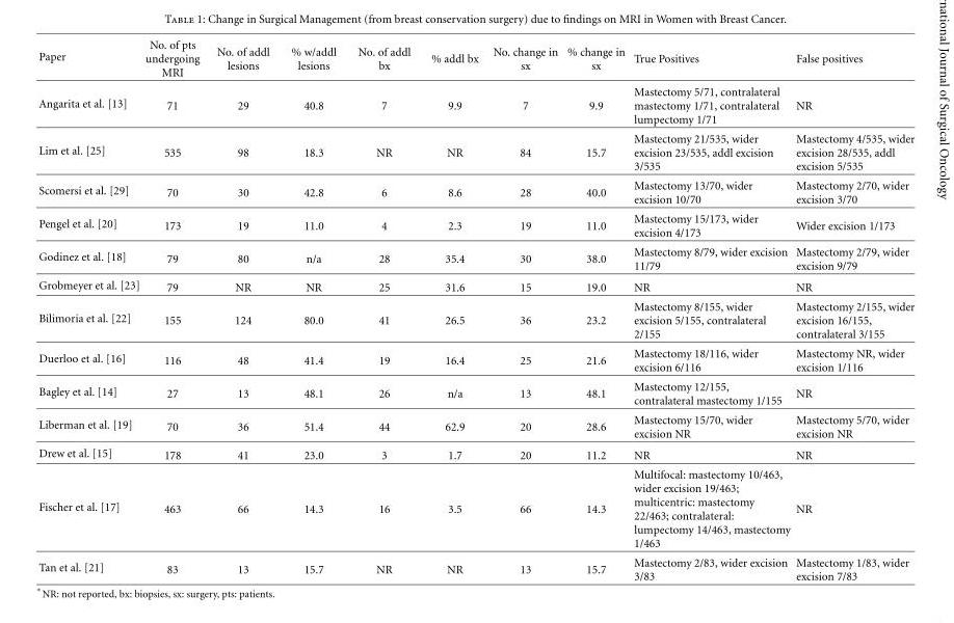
<table><thead><tr><td>Paper</td><td>No. of pts undergoing MRI</td><td>No. of addl lesions</td><td>% w/addl lesions</td><td>No. of addl bx</td><td>% addl bx</td><td>No. change in sx</td><td>% change in sx</td><td>True Positives</td><td>False positives</td></tr></thead><tbody><tr><td>Angarita et al. [13]</td><td>71</td><td>29</td><td>40.8</td><td>7</td><td>9.9</td><td>7</td><td>9.9</td><td>Mastectomy 5/71, contralateral mastectomy 1/71, contralateral lumpectomy 1/71</td><td>NR</td></tr><tr><td>Lim et al. [25]</td><td>535</td><td>98</td><td>18.3</td><td>NR</td><td>NR</td><td>84</td><td>15.7</td><td>Mastectomy 21/535, wider excision 23/535, addl excision 3/535</td><td>Mastectomy 4/535, wider excision 28/535, addl excision 5/535</td></tr><tr><td>Scomersi et al. [29]</td><td>70</td><td>30</td><td>42.8</td><td>6</td><td>8.6</td><td>28</td><td>40.0</td><td>Mastectomy 13/70, wider excision 10/70</td><td>Mastectomy 2/70, wider excision 3/70</td></tr><tr><td>Pengel et al. [20]</td><td>173</td><td>19</td><td>11.0</td><td>4</td><td>2.3</td><td>19</td><td>11.0</td><td>Mastectomy 15/173, wider excision 4/173</td><td>Wider excision 1/173</td></tr><tr><td>Godinez et al. [18]</td><td>79</td><td>80</td><td>n/a</td><td>28</td><td>35.4</td><td>30</td><td>38.0</td><td>Mastectomy 8/79, wider excision 11/79</td><td>Mastectomy 2/79, wider excision 9/79</td></tr><tr><td>Grobmeyer et al. [23]</td><td>79</td><td>NR</td><td>NR</td><td>25</td><td>31.6</td><td>15</td><td>19.0</td><td>NR</td><td>NR</td></tr><tr><td>Bilimoria et al. [22]</td><td>155</td><td>124</td><td>80.0</td><td>41</td><td>26.5</td><td>36</td><td>23.2</td><td>Mastectomy 8/155, wider excision 5/155, contralateral 2/155</td><td>Mastectomy 2/155, wider excision 16/155, contralateral 3/155</td></tr><tr><td>Duerloo et al. [16]</td><td>116</td><td>48</td><td>41.4</td><td>19</td><td>16.4</td><td>25</td><td>21.6</td><td>Mastectomy 18/116, wider excision 6/116</td><td>Mastectomy NR, wider excision 1/116</td></tr><tr><td>Bagley et al. [14]</td><td>27</td><td>13</td><td>48.1</td><td>26</td><td>n/a</td><td>13</td><td>48.1</td><td>Mastectomy 12/155, contralateral mastectomy 1/155</td><td>NR</td></tr><tr><td>Liberman et al. [19]</td><td>70</td><td>36</td><td>51.4</td><td>44</td><td>62.9</td><td>20</td><td>28.6</td><td>Mastectomy 15/70, wider excision NR</td><td>Mastectomy 5/70, wider excision NR</td></tr><tr><td>Drew et al. [15]</td><td>178</td><td>41</td><td>23.0</td><td>3</td><td>1.7</td><td>20</td><td>11.2</td><td>NR</td><td>NR</td></tr><tr><td>Fischer et al. [17]</td><td>463</td><td>66</td><td>14.3</td><td>16</td><td>3.5</td><td>66</td><td>14.3</td><td>Multifocal: mastectomy 10/463, wider excision 19/463; multicentric: mastectomy 22/463; contralateral: lumpectomy 14/463, mastectomy 1/463</td><td>NR</td></tr><tr><td>Tan et al. [21]</td><td>83</td><td>13</td><td>15.7</td><td>NR</td><td>NR</td><td>13</td><td>15.7</td><td>Mastectomy 2/83, wider excision 3/83</td><td>Mastectomy 1/83, wider excision 7/83</td></tr></tbody></table>